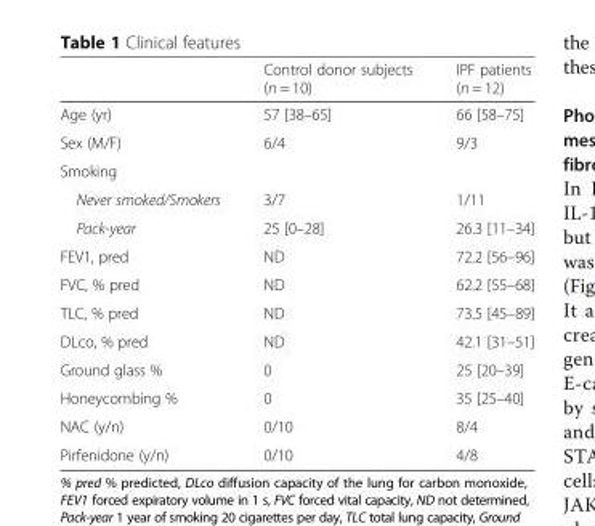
<table><thead><tr><td></td><td>Control donor subjects (n = 10)</td><td>IPF patients (n = 12)</td></tr></thead><tbody><tr><td>Age (yr)</td><td>57 [38–65]</td><td>66 [58–75]</td></tr><tr><td>Sex (M/F)</td><td>6/4</td><td>9/3</td></tr><tr><td colspan="3">Smoking</td></tr><tr><td>Never smoked/Smokers</td><td>3/7</td><td>1/11</td></tr><tr><td>Pack-year</td><td>25 [0–28]</td><td>26.3 [11–34]</td></tr><tr><td>FEV1, pred</td><td>ND</td><td>72.2 [56–96]</td></tr><tr><td>FVC, % pred</td><td>ND</td><td>62.2 [55–68]</td></tr><tr><td>TLC, % pred</td><td>ND</td><td>73.5 [45–89]</td></tr><tr><td>DLco, % pred</td><td>ND</td><td>42.1 [31–51]</td></tr><tr><td>Ground glass %</td><td>0</td><td>25 [20–39]</td></tr><tr><td>Honeycombing %</td><td>0</td><td>35 [25–40]</td></tr><tr><td>NAC (y/n)</td><td>0/10</td><td>8/4</td></tr><tr><td>Pirfenidone (y/n)</td><td>0/10</td><td>4/8</td></tr></tbody></table>